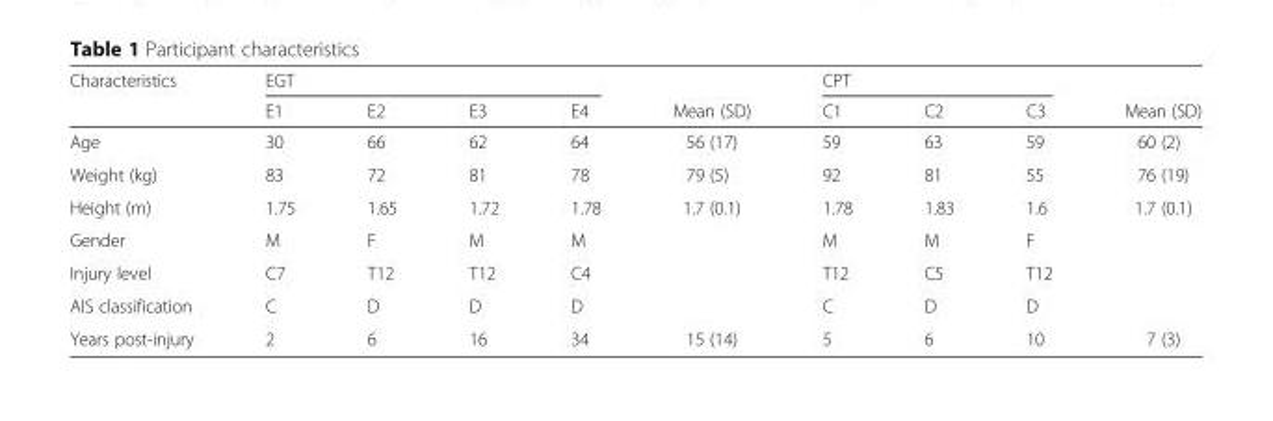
<table><thead><tr><td rowspan="2">Characteristics</td><td colspan="4">EGT</td><td rowspan="2">Mean (SD)</td><td colspan="3">CPT</td><td rowspan="2">Mean (SD)</td></tr><tr><td>E1</td><td>E2</td><td>E3</td><td>E4</td><td>C1</td><td>C2</td><td>C3</td></tr></thead><tbody><tr><td>Age</td><td>30</td><td>66</td><td>62</td><td>64</td><td>56 (17)</td><td>59</td><td>63</td><td>59</td><td>60 (2)</td></tr><tr><td>Weight (kg)</td><td>83</td><td>72</td><td>81</td><td>78</td><td>79 (5)</td><td>92</td><td>81</td><td>55</td><td>76 (19)</td></tr><tr><td>Height (m)</td><td>1.75</td><td>1.65</td><td>1.72</td><td>1.78</td><td>1.7 (0.1)</td><td>1.78</td><td>1.83</td><td>1.6</td><td>1.7 (0.1)</td></tr><tr><td>Gender</td><td>M</td><td>F</td><td>M</td><td>M</td><td></td><td>M</td><td>M</td><td>F</td><td></td></tr><tr><td>Injury level</td><td>C7</td><td>T12</td><td>T12</td><td>C4</td><td></td><td>T12</td><td>C5</td><td>T12</td><td></td></tr><tr><td>AIS classification</td><td>C</td><td>D</td><td>D</td><td>D</td><td></td><td>C</td><td>D</td><td>D</td><td></td></tr><tr><td>Years post-injury</td><td>2</td><td>6</td><td>16</td><td>34</td><td>15 (14)</td><td>5</td><td>6</td><td>10</td><td>7 (3)</td></tr></tbody></table>